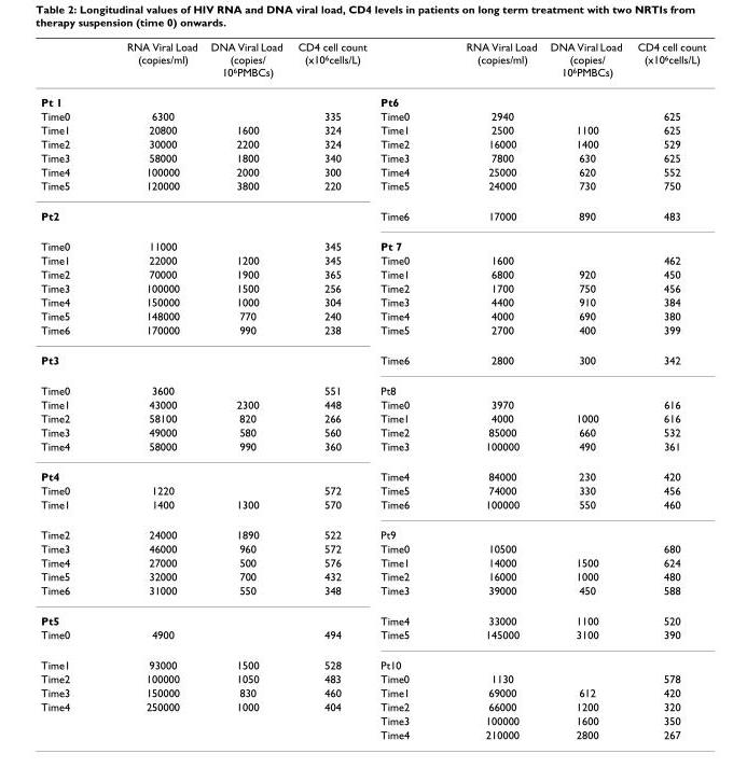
<table><thead><tr><td></td><td>RNA Viral Load (copies/ml)</td><td>DNA Viral Load (copies/ 10<sup>6</sup>PMBCs)</td><td>CD4 cell count (x10<sup>6</sup>cells/L)</td><td></td><td>RNA Viral Load (copies/ml)</td><td>DNA Viral Load (copies/ 10<sup>6</sup>PMBCs)</td><td>CD4 cell count (x10<sup>6</sup>cells/L)</td></tr></thead><tbody><tr><td>Pt 1</td><td></td><td></td><td></td><td>Pt6</td><td></td><td></td><td></td></tr><tr><td>Time0</td><td>6300</td><td></td><td>335</td><td>Time0</td><td>2940</td><td></td><td>625</td></tr><tr><td>Time1</td><td>20800</td><td>1600</td><td>324</td><td>Time1</td><td>2500</td><td>1100</td><td>625</td></tr><tr><td>Time2</td><td>30000</td><td>2200</td><td>324</td><td>Time2</td><td>16000</td><td>1400</td><td>529</td></tr><tr><td>Time3</td><td>58000</td><td>1800</td><td>340</td><td>Time3</td><td>7800</td><td>630</td><td>625</td></tr><tr><td>Time4</td><td>100000</td><td>2000</td><td>300</td><td>Time4</td><td>25000</td><td>620</td><td>552</td></tr><tr><td>Time5</td><td>120000</td><td>3800</td><td>220</td><td>Time5</td><td>24000</td><td>730</td><td>750</td></tr><tr><td>Pt2</td><td></td><td></td><td></td><td>Time6</td><td>17000</td><td>890</td><td>483</td></tr><tr><td>Time0</td><td>11000</td><td></td><td>345</td><td>Pt 7</td><td></td><td></td><td></td></tr><tr><td>Time1</td><td>22000</td><td>1200</td><td>345</td><td>Time0</td><td>1600</td><td></td><td>462</td></tr><tr><td>Time2</td><td>70000</td><td>1900</td><td>365</td><td>Time1</td><td>6800</td><td>920</td><td>450</td></tr><tr><td>Time3</td><td>100000</td><td>1500</td><td>256</td><td>Time2</td><td>1700</td><td>750</td><td>456</td></tr><tr><td>Time4</td><td>150000</td><td>1000</td><td>304</td><td>Time3</td><td>4400</td><td>910</td><td>384</td></tr><tr><td>Time5</td><td>148000</td><td>770</td><td>240</td><td>Time4</td><td>4000</td><td>690</td><td>380</td></tr><tr><td>Time6</td><td>170000</td><td>990</td><td>238</td><td>Time5</td><td>2700</td><td>400</td><td>399</td></tr><tr><td>Pt3</td><td></td><td></td><td></td><td>Time6</td><td>2800</td><td>300</td><td>342</td></tr><tr><td>Time0</td><td>3600</td><td></td><td>551</td><td>Pt8</td><td></td><td></td><td></td></tr><tr><td>Time1</td><td>43000</td><td>2300</td><td>448</td><td>Time0</td><td>3970</td><td></td><td>616</td></tr><tr><td>Time2</td><td>58100</td><td>820</td><td>266</td><td>Time1</td><td>4000</td><td>1000</td><td>616</td></tr><tr><td>Time3</td><td>49000</td><td>580</td><td>560</td><td>Time2</td><td>85000</td><td>660</td><td>532</td></tr><tr><td>Time4</td><td>58000</td><td>990</td><td>360</td><td>Time3</td><td>100000</td><td>490</td><td>361</td></tr><tr><td>Pt4</td><td></td><td></td><td></td><td>Time4</td><td>84000</td><td>230</td><td>420</td></tr><tr><td>Time0</td><td>1220</td><td></td><td>572</td><td>Time5</td><td>74000</td><td>330</td><td>456</td></tr><tr><td>Time1</td><td>1400</td><td>1300</td><td>570</td><td>Time6</td><td>100000</td><td>550</td><td>460</td></tr><tr><td>Time2</td><td>24000</td><td>1890</td><td>522</td><td>Pt9</td><td></td><td></td><td></td></tr><tr><td>Time3</td><td>46000</td><td>960</td><td>572</td><td>Time0</td><td>10500</td><td></td><td>680</td></tr><tr><td>Time4</td><td>27000</td><td>500</td><td>576</td><td>Time1</td><td>14000</td><td>1500</td><td>624</td></tr><tr><td>Time5</td><td>32000</td><td>700</td><td>432</td><td>Time2</td><td>16000</td><td>1000</td><td>480</td></tr><tr><td>Time6</td><td>31000</td><td>550</td><td>348</td><td>Time3</td><td>39000</td><td>450</td><td>588</td></tr><tr><td>Pt5</td><td></td><td></td><td></td><td>Time4</td><td>33000</td><td>1100</td><td>520</td></tr><tr><td>Time0</td><td>4900</td><td></td><td>494</td><td>Time5</td><td>145000</td><td>3100</td><td>390</td></tr><tr><td>Time1</td><td>93000</td><td>1500</td><td>528</td><td>Pt10</td><td></td><td></td><td></td></tr><tr><td>Time2</td><td>100000</td><td>1050</td><td>483</td><td>Time0</td><td>1130</td><td></td><td>578</td></tr><tr><td>Time3</td><td>150000</td><td>830</td><td>460</td><td>Time1</td><td>69000</td><td>612</td><td>420</td></tr><tr><td rowspan="3">Time4</td><td>250000</td><td>1000</td><td>404</td><td>Time2</td><td>66000</td><td>1200</td><td>320</td></tr><tr><td></td><td></td><td></td><td>Time3</td><td>100000</td><td>1600</td><td>350</td></tr><tr><td></td><td></td><td></td><td>Time4</td><td>210000</td><td>2800</td><td>267</td></tr></tbody></table>